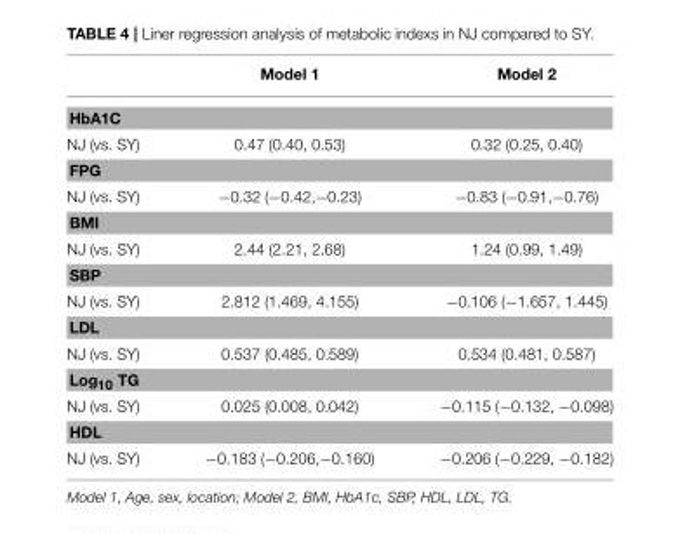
<table><thead><tr><td></td><td>Model 1</td><td>Model 2</td></tr></thead><tbody><tr><td colspan="3">HbA1C</td></tr><tr><td>NJ (vs. SY)</td><td>0.47 (0.40, 0.53)</td><td>0.32 (0.25, 0.40)</td></tr><tr><td colspan="3">FPG</td></tr><tr><td>NJ (vs. SY)</td><td>−0.32 (−0.42,−0.23)</td><td>−0.83 (−0.91,−0.76)</td></tr><tr><td colspan="3">BMI</td></tr><tr><td>NJ (vs. SY)</td><td>2.44 (2.21, 2.68)</td><td>1.24 (0.99, 1.49)</td></tr><tr><td colspan="3">SBP</td></tr><tr><td>NJ (vs. SY)</td><td>2.812 (1.469, 4.155)</td><td>−0.106 (−1.657, 1.445)</td></tr><tr><td colspan="3">LDL</td></tr><tr><td>NJ (vs. SY)</td><td>0.537 (0.485, 0.589)</td><td>0.534 (0.481, 0.587)</td></tr><tr><td colspan="3">Log<sub>10</sub> TG</td></tr><tr><td>NJ (vs. SY)</td><td>0.025 (0.008, 0.042)</td><td>−0.115 (−0.132, −0.098)</td></tr><tr><td colspan="3">HDL</td></tr><tr><td>NJ (vs. SY)</td><td>−0.183 (−0.206,−0.160)</td><td>−0.206 (−0.229, −0.182)</td></tr></tbody></table>